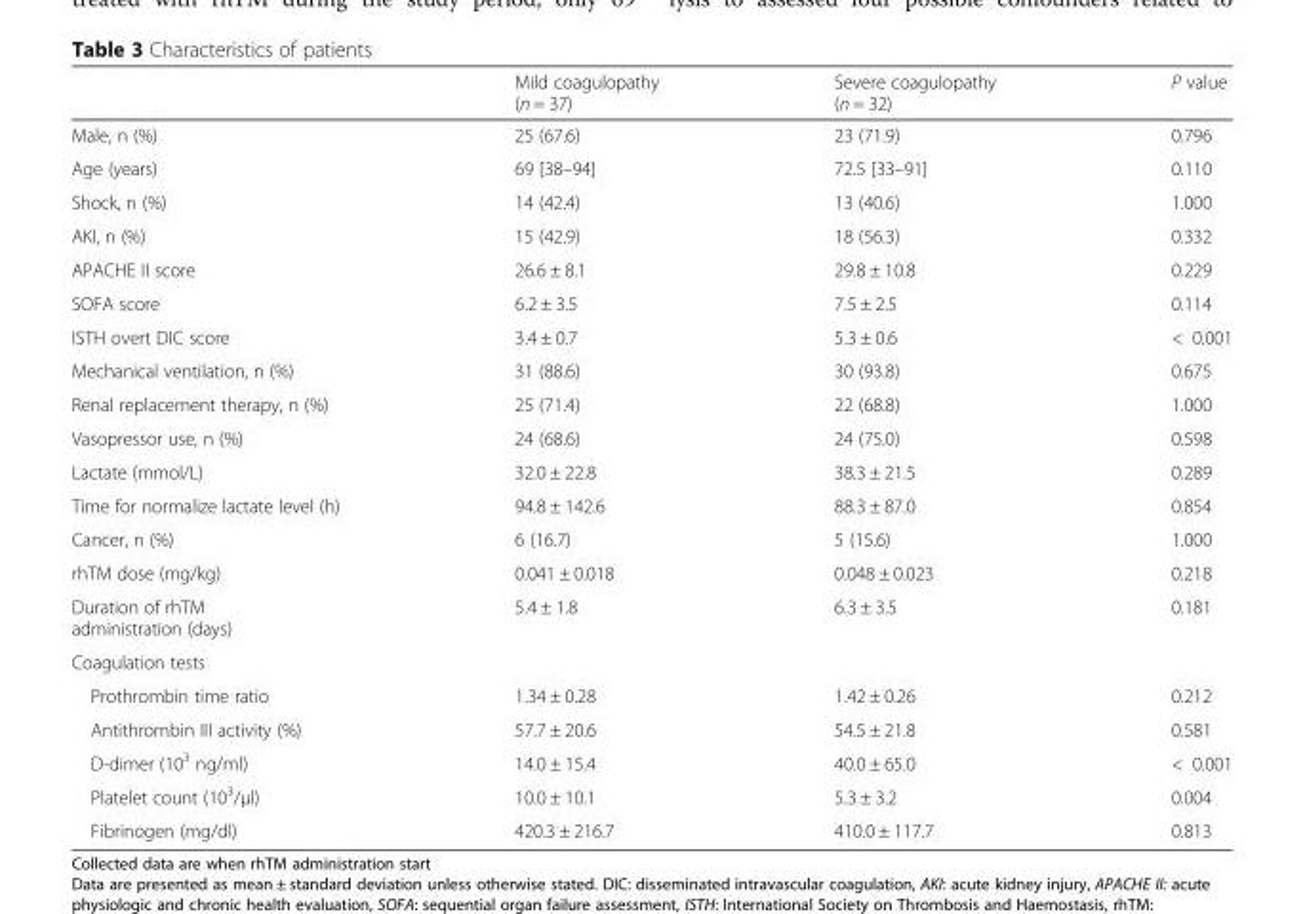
<table><thead><tr><td></td><td>Mild coagulopathy (n = 37)</td><td>Severe coagulopathy (n = 32)</td><td>P value</td></tr></thead><tbody><tr><td>Male, n (%)</td><td>25 (67.6)</td><td>23 (71.9)</td><td>0.796</td></tr><tr><td>Age (years)</td><td>69 [38–94]</td><td>72.5 [33–91]</td><td>0.110</td></tr><tr><td>Shock, n (%)</td><td>14 (42.4)</td><td>13 (40.6)</td><td>1.000</td></tr><tr><td>AKI, n (%)</td><td>15 (42.9)</td><td>18 (56.3)</td><td>0.332</td></tr><tr><td>APACHE II score</td><td>26.6 ± 8.1</td><td>29.8 ± 10.8</td><td>0.229</td></tr><tr><td>SOFA score</td><td>6.2 ± 3.5</td><td>7.5 ± 2.5</td><td>0.114</td></tr><tr><td>ISTH overt DIC score</td><td>3.4 ± 0.7</td><td>5.3 ± 0.6</td><td>&lt; 0.001</td></tr><tr><td>Mechanical ventilation, n (%)</td><td>31 (88.6)</td><td>30 (93.8)</td><td>0.675</td></tr><tr><td>Renal replacement therapy, n (%)</td><td>25 (71.4)</td><td>22 (68.8)</td><td>1.000</td></tr><tr><td>Vasopressor use, n (%)</td><td>24 (68.6)</td><td>24 (75.0)</td><td>0.598</td></tr><tr><td>Lactate (mmol/L)</td><td>32.0 ± 22.8</td><td>38.3 ± 21.5</td><td>0.289</td></tr><tr><td>Time for normalize lactate level (h)</td><td>94.8 ± 142.6</td><td>88.3 ± 87.0</td><td>0.854</td></tr><tr><td>Cancer, n (%)</td><td>6 (16.7)</td><td>5 (15.6)</td><td>1.000</td></tr><tr><td>rhTM dose (mg/kg)</td><td>0.041 ± 0.018</td><td>0.048 ± 0.023</td><td>0.218</td></tr><tr><td>Duration of rhTM administration (days)</td><td>5.4 ± 1.8</td><td>6.3 ± 3.5</td><td>0.181</td></tr><tr><td colspan="4">Coagulation tests</td></tr><tr><td>Prothrombin time ratio</td><td>1.34 ± 0.28</td><td>1.42 ± 0.26</td><td>0.212</td></tr><tr><td>Antithrombin III activity (%)</td><td>57.7 ± 20.6</td><td>54.5 ± 21.8</td><td>0.581</td></tr><tr><td>D-dimer (10<sup>3</sup> ng/ml)</td><td>14.0 ± 15.4</td><td>40.0 ± 65.0</td><td>&lt; 0.001</td></tr><tr><td>Platelet count (10<sup>3</sup>/μl)</td><td>10.0 ± 10.1</td><td>5.3 ± 3.2</td><td>0.004</td></tr><tr><td>Fibrinogen (mg/dl)</td><td>420.3 ± 216.7</td><td>410.0 ± 117.7</td><td>0.813</td></tr></tbody></table>